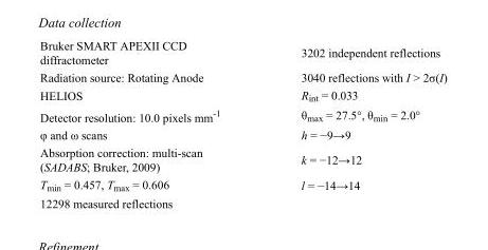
<table><tbody><tr><td>Bruker SMART APEXII CCD diffractometer</td><td>3202 independent reflections</td></tr><tr><td>Radiation source: Rotating Anode</td><td>3040 reflections with I &gt; 2σ(I)</td></tr><tr><td>HELIOS</td><td>R<sub>int</sub> = 0.033</td></tr><tr><td>Detector resolution: 10.0 pixels mm<sup>-1</sup></td><td>θ<sub>max</sub> = 27.5°, θ<sub>min</sub> = 2.0°</td></tr><tr><td>φ and ω scans</td><td>h = −9→9</td></tr><tr><td>Absorption correction: multi-scan (SADABS; Bruker, 2009)</td><td>k = −12→12</td></tr><tr><td>T<sub>min</sub> = 0.457, T<sub>max</sub> = 0.606</td><td>l = −14→14</td></tr><tr><td>12298 measured reflections</td><td></td></tr></tbody></table>